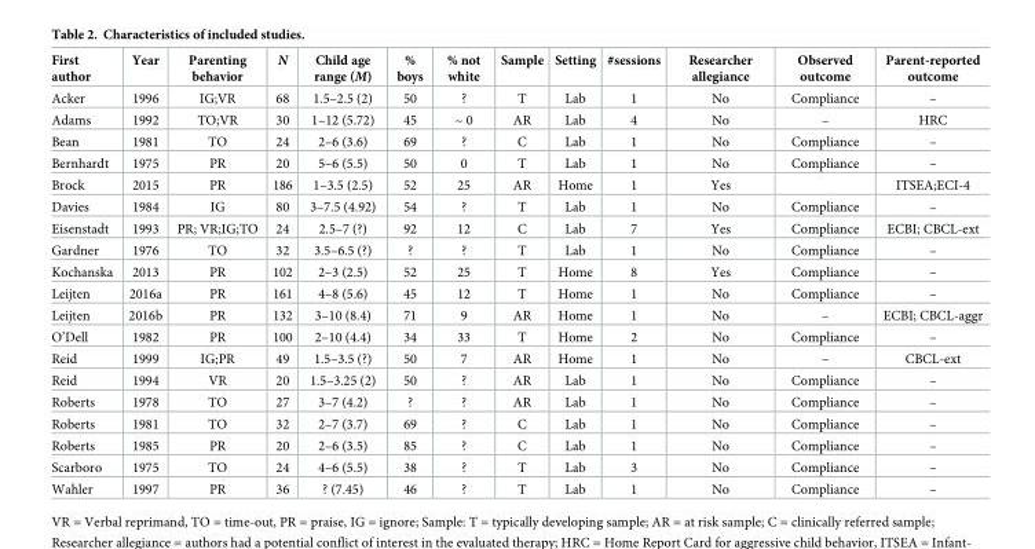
<table><thead><tr><td>First author</td><td>Year</td><td>Parenting behavior</td><td>N</td><td>Child age range (M)</td><td>% boys</td><td>% not white</td><td>Sample</td><td>Setting</td><td>#sessions</td><td>Researcher allegiance</td><td>Observed outcome</td><td>Parent-reported outcome</td></tr></thead><tbody><tr><td>Acker</td><td>1996</td><td>IG;VR</td><td>68</td><td>1.5–2.5 (2)</td><td>50</td><td>?</td><td>T</td><td>Lab</td><td>1</td><td>No</td><td>Compliance</td><td>–</td></tr><tr><td>Adams</td><td>1992</td><td>TO;VR</td><td>30</td><td>1–12 (5.72)</td><td>45</td><td>~ 0</td><td>AR</td><td>Lab</td><td>4</td><td>No</td><td>–</td><td>HRC</td></tr><tr><td>Bean</td><td>1981</td><td>TO</td><td>24</td><td>2–6 (3.6)</td><td>69</td><td>?</td><td>C</td><td>Lab</td><td>1</td><td>No</td><td>Compliance</td><td>–</td></tr><tr><td>Bernhardt</td><td>1975</td><td>PR</td><td>20</td><td>5–6 (5.5)</td><td>50</td><td>0</td><td>T</td><td>Lab</td><td>1</td><td>No</td><td>Compliance</td><td>–</td></tr><tr><td>Brock</td><td>2015</td><td>PR</td><td>186</td><td>1–3.5 (2.5)</td><td>52</td><td>25</td><td>AR</td><td>Home</td><td>1</td><td>Yes</td><td></td><td>ITSEA;ECI-4</td></tr><tr><td>Davies</td><td>1984</td><td>IG</td><td>80</td><td>3–7.5 (4.92)</td><td>54</td><td>?</td><td>T</td><td>Lab</td><td>1</td><td>No</td><td>Compliance</td><td>–</td></tr><tr><td>Eisenstadt</td><td>1993</td><td>PR; VR;IG;TO</td><td>24</td><td>2.5–7 (?)</td><td>92</td><td>12</td><td>C</td><td>Lab</td><td>7</td><td>Yes</td><td>Compliance</td><td>ECBI; CBCL-ext</td></tr><tr><td>Gardner</td><td>1976</td><td>TO</td><td>32</td><td>3.5–6.5 (?)</td><td>?</td><td>?</td><td>T</td><td>Lab</td><td>1</td><td>No</td><td>Compliance</td><td>–</td></tr><tr><td>Kochanska</td><td>2013</td><td>PR</td><td>102</td><td>2–3 (2.5)</td><td>52</td><td>25</td><td>T</td><td>Home</td><td>8</td><td>Yes</td><td>Compliance</td><td>–</td></tr><tr><td>Leijten</td><td>2016a</td><td>PR</td><td>161</td><td>4–8 (5.6)</td><td>45</td><td>12</td><td>T</td><td>Home</td><td>1</td><td>No</td><td>Compliance</td><td>–</td></tr><tr><td>Leijten</td><td>2016b</td><td>PR</td><td>132</td><td>3–10 (8.4)</td><td>71</td><td>9</td><td>AR</td><td>Home</td><td>1</td><td>No</td><td>–</td><td>ECBI; CBCL-aggr</td></tr><tr><td>O’Dell</td><td>1982</td><td>PR</td><td>100</td><td>2–10 (4.4)</td><td>34</td><td>33</td><td>T</td><td>Home</td><td>2</td><td>No</td><td>Compliance</td><td>–</td></tr><tr><td>Reid</td><td>1999</td><td>IG;PR</td><td>49</td><td>1.5–3.5 (?)</td><td>50</td><td>7</td><td>AR</td><td>Home</td><td>1</td><td>No</td><td>–</td><td>CBCL-ext</td></tr><tr><td>Reid</td><td>1994</td><td>VR</td><td>20</td><td>1.5–3.25 (2)</td><td>50</td><td>?</td><td>AR</td><td>Lab</td><td>1</td><td>No</td><td>Compliance</td><td>–</td></tr><tr><td>Roberts</td><td>1978</td><td>TO</td><td>27</td><td>3–7 (4.2)</td><td>?</td><td>?</td><td>AR</td><td>Lab</td><td>1</td><td>No</td><td>Compliance</td><td>–</td></tr><tr><td>Roberts</td><td>1981</td><td>TO</td><td>32</td><td>2–7 (3.7)</td><td>69</td><td>?</td><td>C</td><td>Lab</td><td>1</td><td>No</td><td>Compliance</td><td>–</td></tr><tr><td>Roberts</td><td>1985</td><td>PR</td><td>20</td><td>2–6 (3.5)</td><td>85</td><td>?</td><td>C</td><td>Lab</td><td>1</td><td>No</td><td>Compliance</td><td>–</td></tr><tr><td>Scarboro</td><td>1975</td><td>TO</td><td>24</td><td>4–6 (5.5)</td><td>38</td><td>?</td><td>T</td><td>Lab</td><td>3</td><td>No</td><td>Compliance</td><td>–</td></tr><tr><td>Wahler</td><td>1997</td><td>PR</td><td>36</td><td>? (7.45)</td><td>46</td><td>?</td><td>T</td><td>Lab</td><td>1</td><td>No</td><td>Compliance</td><td>–</td></tr></tbody></table>